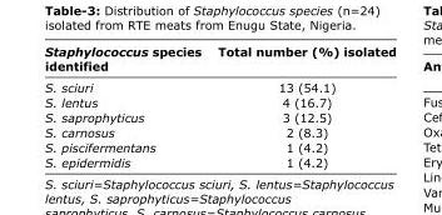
<table><thead><tr><td>Staphylococcus species identified</td><td>Total number (%) isolated</td></tr></thead><tbody><tr><td>S. sciuri</td><td>13 (54.1)</td></tr><tr><td>S. lentus</td><td>4 (16.7)</td></tr><tr><td>S. saprophyticus</td><td>3 (12.5)</td></tr><tr><td>S. carnosus</td><td>2 (8.3)</td></tr><tr><td>S. piscifermentans</td><td>1 (4.2)</td></tr><tr><td>S. epidermidis</td><td>1 (4.2)</td></tr></tbody></table>